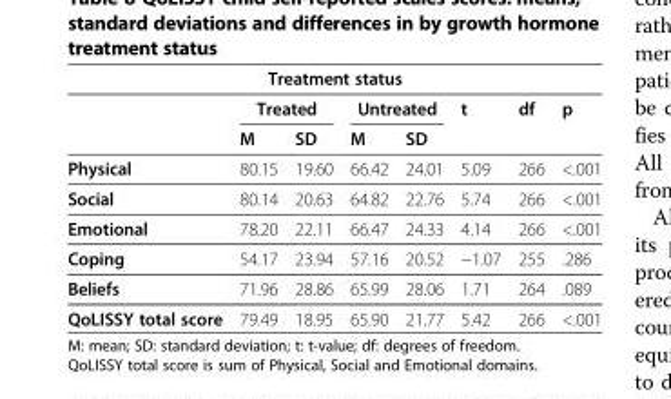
<table><thead><tr><td colspan="8">Treatment status</td></tr><tr><td rowspan="2"></td><td colspan="2">Treated</td><td colspan="2">Untreated</td><td rowspan="2">t</td><td rowspan="2">df</td><td rowspan="2">p</td></tr><tr><td>M</td><td>SD</td><td>M</td><td>SD</td></tr></thead><tbody><tr><td>Physical</td><td>80.15</td><td>19.60</td><td>66.42</td><td>24.01</td><td>5.09</td><td>266</td><td>&lt;.001</td></tr><tr><td>Social</td><td>80.14</td><td>20.63</td><td>64.82</td><td>22.76</td><td>5.74</td><td>266</td><td>&lt;.001</td></tr><tr><td>Emotional</td><td>78.20</td><td>22.11</td><td>66.47</td><td>24.33</td><td>4.14</td><td>266</td><td>&lt;.001</td></tr><tr><td>Coping</td><td>54.17</td><td>23.94</td><td>57.16</td><td>20.52</td><td>−1.07</td><td>255</td><td>.286</td></tr><tr><td>Beliefs</td><td>71.96</td><td>28.86</td><td>65.99</td><td>28.06</td><td>1.71</td><td>264</td><td>.089</td></tr><tr><td>QoLISSY total score</td><td>79.49</td><td>18.95</td><td>65.90</td><td>21.77</td><td>5.42</td><td>266</td><td>&lt;.001</td></tr></tbody></table>